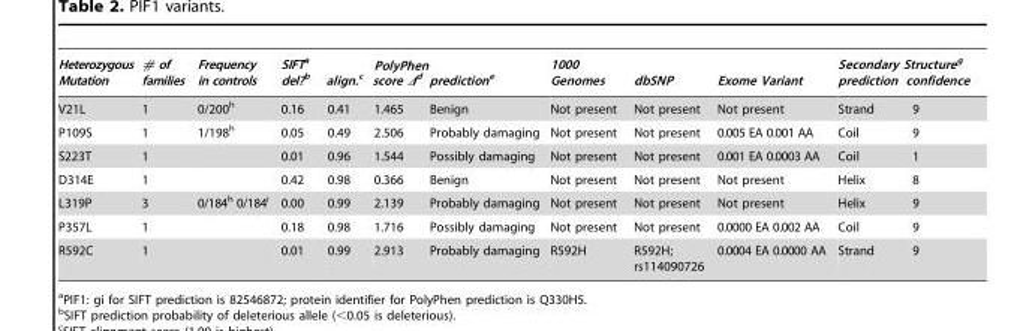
<table><thead><tr><td rowspan="2">Heterozygous Mutation V21L</td><td rowspan="2"># of families 1</td><td rowspan="2">Frequency in controls 0/200<sup>h</sup></td><td colspan="2">SIFTa del?b align.c</td><td colspan="2">PolyPhen score Δd predictione</td><td rowspan="2">1000 Genomes Not present</td><td rowspan="2">dbSNP Not present</td><td rowspan="2">Exome Variant Not present</td><td colspan="2">Secondary Structureg prediction confidence</td></tr><tr><td>0.16</td><td>0.41</td><td>1.465</td><td>Benign</td><td>Strand</td><td>9</td></tr></thead><tbody><tr><td>P109S</td><td>1</td><td>1/198<sup>h</sup></td><td>0.05</td><td>0.49</td><td>2.506</td><td>Probably damaging</td><td>Not present</td><td>Not present</td><td>0.005 EA 0.001 AA</td><td>Coil</td><td>9</td></tr><tr><td>S223T</td><td>1</td><td></td><td>0.01</td><td>0.96</td><td>1.544</td><td>Possibly damaging</td><td>Not present</td><td>Not present</td><td>0.001 EA 0.0003 AA</td><td>Coil</td><td>1</td></tr><tr><td>D314E</td><td>1</td><td></td><td>0.42</td><td>0.98</td><td>0.366</td><td>Benign</td><td>Not present</td><td>Not present</td><td>Not present</td><td>Helix</td><td>8</td></tr><tr><td>L319P</td><td>3</td><td>0/184<sup>h</sup> 0/184<sup>i</sup></td><td>0.00</td><td>0.99</td><td>2.139</td><td>Probably damaging</td><td>Not present</td><td>Not present</td><td>Not present</td><td>Helix</td><td>9</td></tr><tr><td>P357L</td><td>1</td><td></td><td>0.18</td><td>0.98</td><td>1.716</td><td>Possibly damaging</td><td>Not present</td><td>Not present</td><td>0.0000 EA 0.002 AA</td><td>Coil</td><td>9</td></tr><tr><td>R592C</td><td>1</td><td></td><td>0.01</td><td>0.99</td><td>2.913</td><td>Probably damaging</td><td>R592H</td><td>R592H; rs114090726</td><td>0.0004 EA 0.0000 AA</td><td>Strand</td><td>9</td></tr></tbody></table>